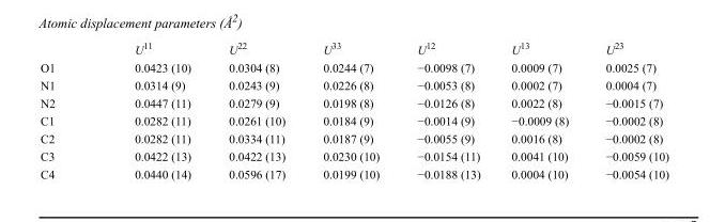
<table><thead><tr><td></td><td>U<sup>11</sup></td><td>U<sup>22</sup></td><td>U<sup>33</sup></td><td>U<sup>12</sup></td><td>U<sup>13</sup></td><td>U<sup>23</sup></td></tr></thead><tbody><tr><td>O1</td><td>0.0423 (10)</td><td>0.0304 (8)</td><td>0.0244 (7)</td><td>−0.0098 (7)</td><td>0.0009 (7)</td><td>0.0025 (7)</td></tr><tr><td>N1</td><td>0.0314 (9)</td><td>0.0243 (9)</td><td>0.0226 (8)</td><td>−0.0053 (8)</td><td>0.0002 (7)</td><td>0.0004 (7)</td></tr><tr><td>N2</td><td>0.0447 (11)</td><td>0.0279 (9)</td><td>0.0198 (8)</td><td>−0.0126 (8)</td><td>0.0022 (8)</td><td>−0.0015 (7)</td></tr><tr><td>C1</td><td>0.0282 (11)</td><td>0.0261 (10)</td><td>0.0184 (9)</td><td>−0.0014 (9)</td><td>−0.0009 (8)</td><td>−0.0002 (8)</td></tr><tr><td>C2</td><td>0.0282 (11)</td><td>0.0334 (11)</td><td>0.0187 (9)</td><td>−0.0055 (9)</td><td>0.0016 (8)</td><td>−0.0002 (8)</td></tr><tr><td>C3</td><td>0.0422 (13)</td><td>0.0422 (13)</td><td>0.0230 (10)</td><td>−0.0154 (11)</td><td>0.0041 (10)</td><td>−0.0059 (10)</td></tr><tr><td>C4</td><td>0.0440 (14)</td><td>0.0596 (17)</td><td>0.0199 (10)</td><td>−0.0188 (13)</td><td>0.0004 (10)</td><td>−0.0054 (10)</td></tr></tbody></table>